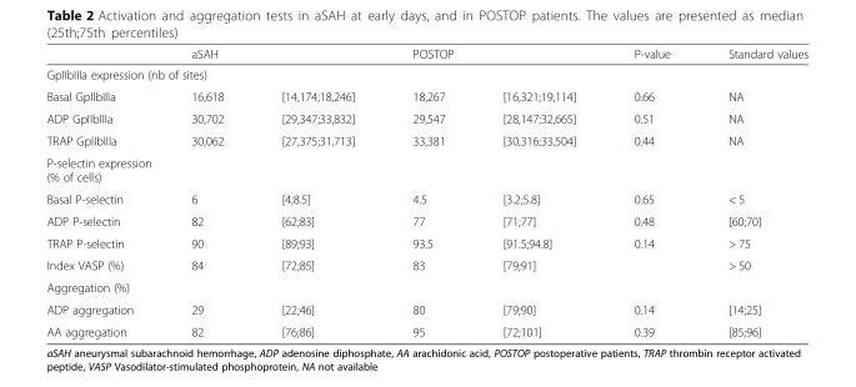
<table><thead><tr><td></td><td colspan="2">aSAH</td><td colspan="2">POSTOP</td><td>P-value</td><td>Standard values</td></tr><tr><td colspan="7">GpIIbIIIa expression (nb of sites)</td></tr><tr><td>Basal GpIIbIIIa</td><td>16,618</td><td>[14,174;18,246]</td><td>18,267</td><td>[16,321;19,114]</td><td>0.66</td><td>NA</td></tr></thead><tbody><tr><td>ADP GpIIbIIIa</td><td>30,702</td><td>[29,347;33,832]</td><td>29,547</td><td>[28,147;32,665]</td><td>0.51</td><td>NA</td></tr><tr><td>TRAP GpIIbIIIa</td><td>30,062</td><td>[27,375;31,713]</td><td>33,381</td><td>[30,316;33,504]</td><td>0.44</td><td>NA</td></tr><tr><td colspan="7">P-selectin expression (% of cells)</td></tr><tr><td>Basal P-selectin</td><td>6</td><td>[4;8.5]</td><td>4.5</td><td>[3.2;5.8]</td><td>0.65</td><td>&lt; 5</td></tr><tr><td>ADP P-selectin</td><td>82</td><td>[62;83]</td><td>77</td><td>[71;77]</td><td>0.48</td><td>[60;70]</td></tr><tr><td>TRAP P-selectin</td><td>90</td><td>[89;93]</td><td>93.5</td><td>[91.5;94.8]</td><td>0.14</td><td>&gt; 75</td></tr><tr><td>Index VASP (%)</td><td>84</td><td>[72;85]</td><td>83</td><td>[79;91]</td><td></td><td>&gt; 50</td></tr><tr><td colspan="7">Aggregation (%)</td></tr><tr><td>ADP aggregation</td><td>29</td><td>[22;46]</td><td>80</td><td>[79;90]</td><td>0.14</td><td>[14;25]</td></tr><tr><td>AA aggregation</td><td>82</td><td>[76;86]</td><td>95</td><td>[72;101]</td><td>0.39</td><td>[85;96]</td></tr></tbody></table>